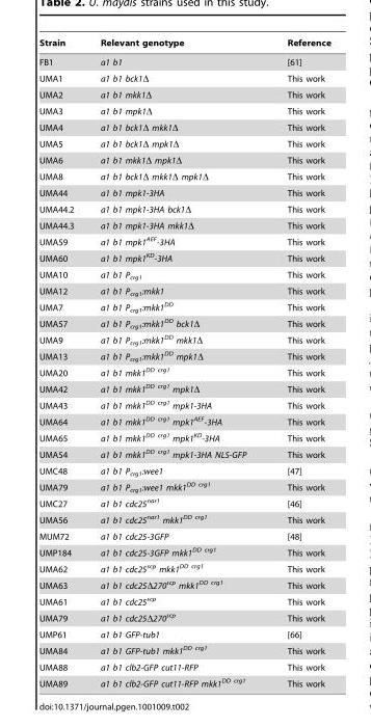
<table><thead><tr><td>Strain</td><td>Relevant genotype</td><td>Reference</td></tr></thead><tbody><tr><td>FB1</td><td>a1 b1</td><td>[61]</td></tr><tr><td>UMA1</td><td>a1 b1 bck1Δ</td><td>This work</td></tr><tr><td>UMA2</td><td>a1 b1 mkk1Δ</td><td>This work</td></tr><tr><td>UMA3</td><td>a1 b1 mpk1Δ</td><td>This work</td></tr><tr><td>UMA4</td><td>a1 b1 bck1Δ mkk1Δ</td><td>This work</td></tr><tr><td>UMA5</td><td>a1 b1 bck1Δ mpk1Δ</td><td>This work</td></tr><tr><td>UMA6</td><td>a1 b1 mkk1Δ mpk1Δ</td><td>This work</td></tr><tr><td>UMA8</td><td>a1 b1 bck1Δ mkk1Δ mpk1Δ</td><td>This work</td></tr><tr><td>UMA44</td><td>a1 b1 mpk1-3HA</td><td>This work</td></tr><tr><td>UMA44.2</td><td>a1 b1 mpk1-3HA bck1Δ</td><td>This work</td></tr><tr><td>UMA44.3</td><td>a1 b1 mpk1-3HA mkk1Δ</td><td>This work</td></tr><tr><td>UMA59</td><td>a1 b1 mpk1<sup>AEF</sup>-3HA</td><td>This work</td></tr><tr><td>UMA60</td><td>a1 b1 mpk1<sup>KD</sup>-3HA</td><td>This work</td></tr><tr><td>UMA10</td><td>a1 b1 P<sub>crg1</sub></td><td>This work</td></tr><tr><td>UMA12</td><td>a1 b1 P<sub>crg1</sub>:mkk1</td><td>This work</td></tr><tr><td>UMA7</td><td>a1 b1 P<sub>crg1</sub>:mkk1<sup>DD</sup></td><td>This work</td></tr><tr><td>UMA57</td><td>a1 b1 P<sub>crg1</sub>:mkk1<sup>DD</sup> bck1Δ</td><td>This work</td></tr><tr><td>UMA9</td><td>a1 b1 P<sub>crg1</sub>:mkk1<sup>DD</sup> mkk1Δ</td><td>This work</td></tr><tr><td>UMA13</td><td>a1 b1 P<sub>crg1</sub>:mkk1<sup>DD</sup> mpk1Δ</td><td>This work</td></tr><tr><td>UMA20</td><td>a1 b1 mkk1<sup>DD crg1</sup></td><td>This work</td></tr><tr><td>UMA42</td><td>a1 b1 mkk1<sup>DD crg1</sup> mpk1Δ</td><td>This work</td></tr><tr><td>UMA43</td><td>a1 b1 mkk1<sup>DD crg1</sup> mpk1-3HA</td><td>This work</td></tr><tr><td>UMA64</td><td>a1 b1 mkk1<sup>DD crg1</sup> mpk1<sup>AEF</sup>-3HA</td><td>This work</td></tr><tr><td>UMA65</td><td>a1 b1 mkk1<sup>DD crg1</sup> mpk1<sup>KD</sup>-3HA</td><td>This work</td></tr><tr><td>UMA54</td><td>a1 b1 mkk1<sup>DD crg1</sup> mpk1-3HA NLS-GFP</td><td>This work</td></tr><tr><td>UMC48</td><td>a1 b1 P<sub>crg1</sub>:wee1</td><td>[47]</td></tr><tr><td>UMA79</td><td>a1 b1 P<sub>crg1</sub>:wee1 mkk1<sup>DD crg1</sup></td><td>This work</td></tr><tr><td>UMC27</td><td>a1 b1 cdc25<sup>nar1</sup></td><td>[46]</td></tr><tr><td>UMA56</td><td>a1 b1 cdc25<sup>nar1</sup> mkk1<sup>DD crg1</sup></td><td>This work</td></tr><tr><td>MUM72</td><td>a1 b1 cdc25-3GFP</td><td>[48]</td></tr><tr><td>UMP184</td><td>a1 b1 cdc25-3GFP mkk1<sup>DD crg1</sup></td><td>This work</td></tr><tr><td>UMA62</td><td>a1 b1 cdc25<sup>scp</sup> mkk1<sup>DD crg1</sup></td><td>This work</td></tr><tr><td>UMA63</td><td>a1 b1 cdc25Δ270<sup>scp</sup> mkk1<sup>DD crg1</sup></td><td>This work</td></tr><tr><td>UMA61</td><td>a1 b1 cdc25<sup>scp</sup></td><td>This work</td></tr><tr><td>UMA79</td><td>a1 b1 cdc25Δ270<sup>scp</sup></td><td>This work</td></tr><tr><td>UMP61</td><td>a1 b1 GFP-tub1</td><td>[66]</td></tr><tr><td>UMA84</td><td>a1 b1 GFP-tub1 mkk1<sup>DD crg1</sup></td><td>This work</td></tr><tr><td>UMA88</td><td>a1 b1 clb2-GFP cut11-RFP</td><td>This work</td></tr><tr><td>UMA89</td><td>a1 b1 clb2-GFP cut11-RFP mkk1<sup>DD crg1</sup></td><td>This work</td></tr></tbody></table>